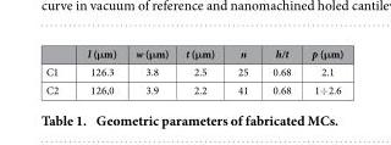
<table><thead><tr><td></td><td>l (μm)</td><td>w (μm)</td><td>t (μm)</td><td>n</td><td>h/t</td><td>p (μm)</td></tr></thead><tbody><tr><td>C1</td><td>126.3</td><td>3.8</td><td>2.5</td><td>25</td><td>0.68</td><td>2.1</td></tr><tr><td>C2</td><td>126,0</td><td>3.9</td><td>2.2</td><td>41</td><td>0.68</td><td>1÷ 2.6</td></tr></tbody></table>